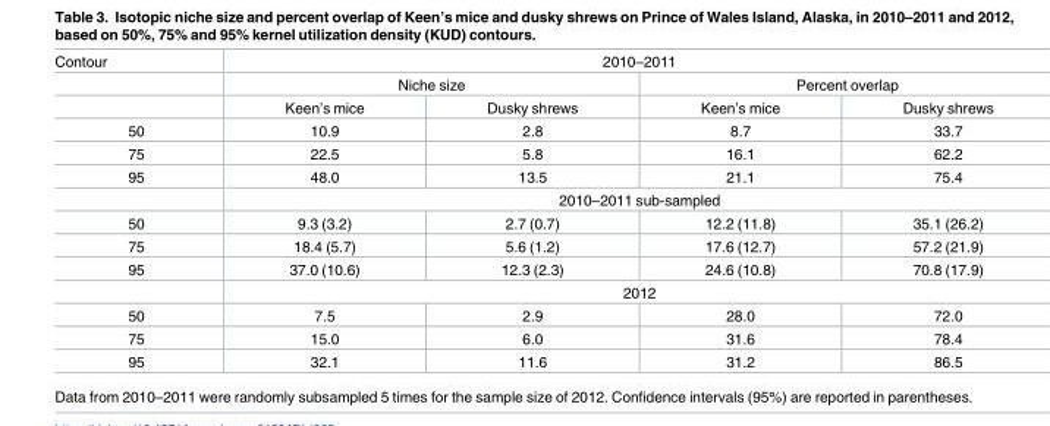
<table><tbody><tr><td rowspan="3">Contour</td><td colspan="4">2010–2011</td></tr><tr><td colspan="2">Niche size</td><td colspan="2">Percent overlap</td></tr><tr><td>Keen’s mice</td><td>Dusky shrews</td><td>Keen’s mice</td><td>Dusky shrews</td></tr><tr><td>50</td><td>10.9</td><td>2.8</td><td>8.7</td><td>33.7</td></tr><tr><td>75</td><td>22.5</td><td>5.8</td><td>16.1</td><td>62.2</td></tr><tr><td rowspan="2">95</td><td>48.0</td><td>13.5</td><td>21.1</td><td>75.4</td></tr><tr><td colspan="4">2010–2011 sub-sampled</td></tr><tr><td>50</td><td>9.3 (3.2)</td><td>2.7 (0.7)</td><td>12.2 (11.8)</td><td>35.1 (26.2)</td></tr><tr><td>75</td><td>18.4 (5.7)</td><td>5.6 (1.2)</td><td>17.6 (12.7)</td><td>57.2 (21.9)</td></tr><tr><td rowspan="2">95</td><td>37.0 (10.6)</td><td>12.3 (2.3)</td><td>24.6 (10.8)</td><td>70.8 (17.9)</td></tr><tr><td colspan="4">2012</td></tr><tr><td>50</td><td>7.5</td><td>2.9</td><td>28.0</td><td>72.0</td></tr><tr><td>75</td><td>15.0</td><td>6.0</td><td>31.6</td><td>78.4</td></tr><tr><td>95</td><td>32.1</td><td>11.6</td><td>31.2</td><td>86.5</td></tr></tbody></table>